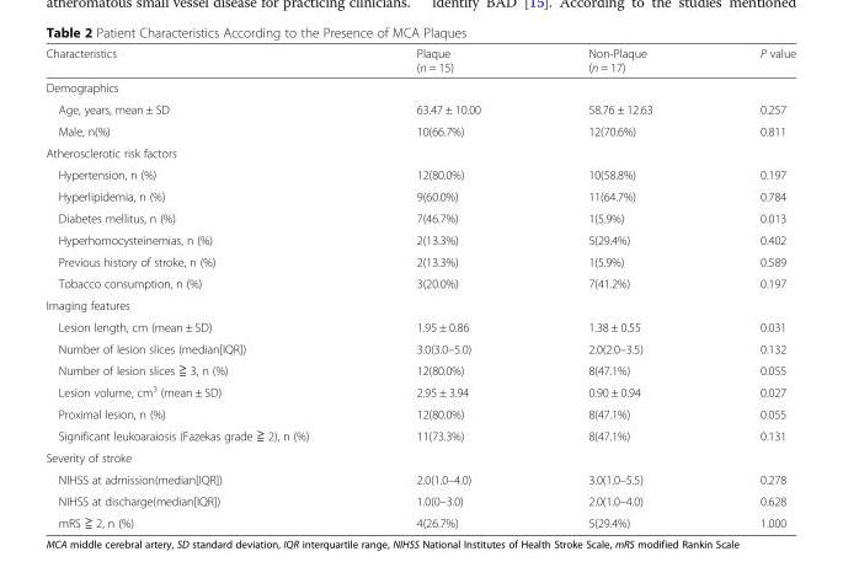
<table><thead><tr><td>Characteristics</td><td>Plaque (n = 15)</td><td>Non-Plaque (n = 17)</td><td>P value</td></tr></thead><tbody><tr><td colspan="4">Demographics</td></tr><tr><td>Age, years, mean ± SD</td><td>63.47 ± 10.00</td><td>58.76 ± 12.63</td><td>0.257</td></tr><tr><td>Male, n(%)</td><td>10(66.7%)</td><td>12(70.6%)</td><td>0.811</td></tr><tr><td colspan="4">Atherosclerotic risk factors</td></tr><tr><td>Hypertension, n (%)</td><td>12(80.0%)</td><td>10(58.8%)</td><td>0.197</td></tr><tr><td>Hyperlipidemia, n (%)</td><td>9(60.0%)</td><td>11(64.7%)</td><td>0.784</td></tr><tr><td>Diabetes mellitus, n (%)</td><td>7(46.7%)</td><td>1(5.9%)</td><td>0.013</td></tr><tr><td>Hyperhomocysteinemias, n (%)</td><td>2(13.3%)</td><td>5(29.4%)</td><td>0.402</td></tr><tr><td>Previous history of stroke, n (%)</td><td>2(13.3%)</td><td>1(5.9%)</td><td>0.589</td></tr><tr><td>Tobacco consumption, n (%)</td><td>3(20.0%)</td><td>7(41.2%)</td><td>0.197</td></tr><tr><td colspan="4">Imaging features</td></tr><tr><td>Lesion length, cm (mean ± SD)</td><td>1.95 ± 0.86</td><td>1.38 ± 0.55</td><td>0.031</td></tr><tr><td>Number of lesion slices (median[IQR])</td><td>3.0(3.0–5.0)</td><td>2.0(2.0–3.5)</td><td>0.132</td></tr><tr><td>Number of lesion slices ≧ 3, n (%)</td><td>12(80.0%)</td><td>8(47.1%)</td><td>0.055</td></tr><tr><td>Lesion volume, cm<sup>3</sup> (mean ± SD)</td><td>2.95 ± 3.94</td><td>0.90 ± 0.94</td><td>0.027</td></tr><tr><td>Proximal lesion, n (%)</td><td>12(80.0%)</td><td>8(47.1%)</td><td>0.055</td></tr><tr><td>Significant leukoaraiosis (Fazekas grade ≧ 2), n (%)</td><td>11(73.3%)</td><td>8(47.1%)</td><td>0.131</td></tr><tr><td colspan="4">Severity of stroke</td></tr><tr><td>NIHSS at admission(median[IQR])</td><td>2.0(1.0–4.0)</td><td>3.0(1.0–5.5)</td><td>0.278</td></tr><tr><td>NIHSS at discharge(median[IQR])</td><td>1.0(0–3.0)</td><td>2.0(1.0–4.0)</td><td>0.628</td></tr><tr><td>mRS ≧ 2, n (%)</td><td>4(26.7%)</td><td>5(29.4%)</td><td>1.000</td></tr></tbody></table>